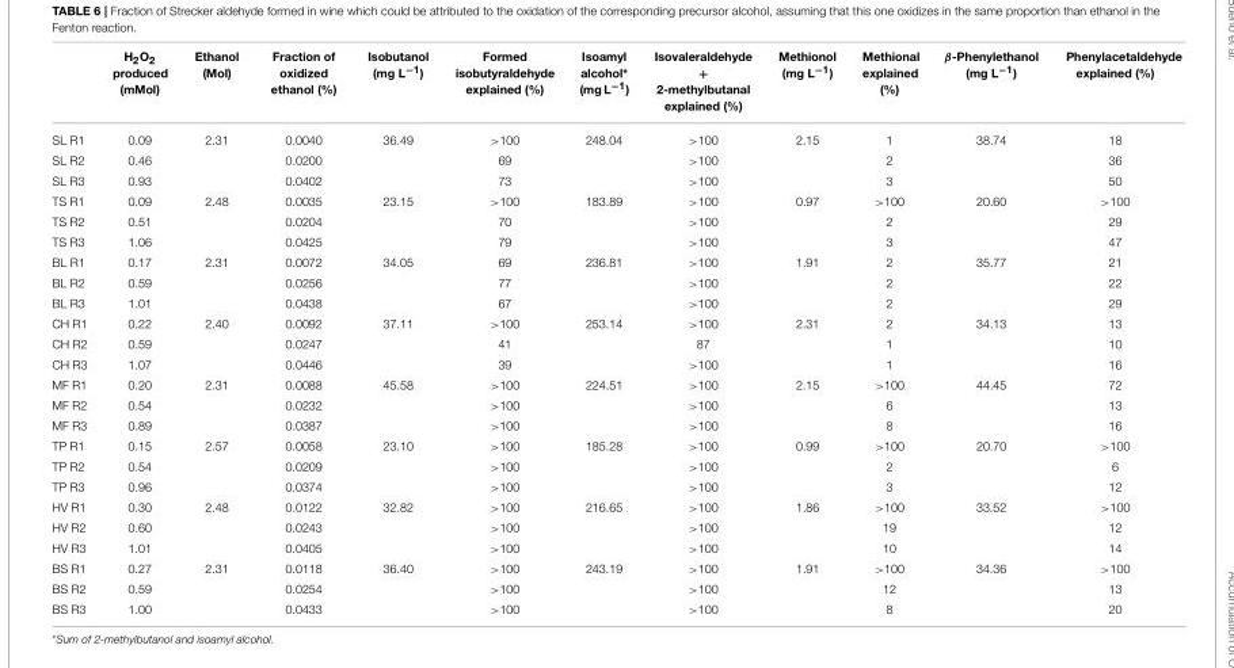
<table><thead><tr><td></td><td>H<sub>2</sub>O<sub>2</sub> produced (mMol)</td><td>Ethanol (Mol)</td><td>Fraction of oxidized ethanol (%)</td><td>Isobutanol (mg L<sup>−1</sup>)</td><td>Formed isobutyraldehyde explained (%)</td><td>Isoamyl alcohol* (mg L<sup>−1</sup>)</td><td>Isovaleraldehyde + 2-methylbutanal explained (%)</td><td>Methionol (mg L<sup>−1</sup>)</td><td>Methional explained (%)</td><td>β-Phenylethanol (mg L<sup>−1</sup>)</td><td>Phenylacetaldehyde explained (%)</td></tr></thead><tbody><tr><td>SL R1</td><td>0.09</td><td>2.31</td><td>0.0040</td><td>36.49</td><td>&gt;100</td><td>248.04</td><td>&gt;100</td><td>2.15</td><td>1</td><td>38.74</td><td>18</td></tr><tr><td>SL R2</td><td>0.46</td><td></td><td>0.0200</td><td></td><td>69</td><td></td><td>&gt;100</td><td></td><td>2</td><td></td><td>36</td></tr><tr><td>SL R3</td><td>0.93</td><td></td><td>0.0402</td><td></td><td>73</td><td></td><td>&gt;100</td><td></td><td>3</td><td></td><td>50</td></tr><tr><td>TS R1</td><td>0.09</td><td>2.48</td><td>0.0035</td><td>23.15</td><td>&gt;100</td><td>183.89</td><td>&gt;100</td><td>0.97</td><td>&gt;100</td><td>20.60</td><td>&gt;100</td></tr><tr><td>TS R2</td><td>0.51</td><td></td><td>0.0204</td><td></td><td>70</td><td></td><td>&gt;100</td><td></td><td>2</td><td></td><td>29</td></tr><tr><td>TS R3</td><td>1.06</td><td></td><td>0.0425</td><td></td><td>79</td><td></td><td>&gt;100</td><td></td><td>3</td><td></td><td>47</td></tr><tr><td>BL R1</td><td>0.17</td><td>2.31</td><td>0.0072</td><td>34.05</td><td>69</td><td>236.81</td><td>&gt;100</td><td>1.91</td><td>2</td><td>35.77</td><td>21</td></tr><tr><td>BL R2</td><td>0.59</td><td></td><td>0.0256</td><td></td><td>77</td><td></td><td>&gt;100</td><td></td><td>2</td><td></td><td>22</td></tr><tr><td>BL R3</td><td>1.01</td><td></td><td>0.0438</td><td></td><td>67</td><td></td><td>&gt;100</td><td></td><td>2</td><td></td><td>29</td></tr><tr><td>CH R1</td><td>0.22</td><td>2.40</td><td>0.0092</td><td>37.11</td><td>&gt;100</td><td>253.14</td><td>&gt;100</td><td>2.31</td><td>2</td><td>34.13</td><td>13</td></tr><tr><td>CH R2</td><td>0.59</td><td></td><td>0.0247</td><td></td><td>41</td><td></td><td>87</td><td></td><td>1</td><td></td><td>10</td></tr><tr><td>CH R3</td><td>1.07</td><td></td><td>0.0446</td><td></td><td>39</td><td></td><td>&gt;100</td><td></td><td>1</td><td></td><td>16</td></tr><tr><td>MF R1</td><td>0.20</td><td>2.31</td><td>0.0088</td><td>45.58</td><td>&gt;100</td><td>224.51</td><td>&gt;100</td><td>2.15</td><td>&gt;100</td><td>44.45</td><td>72</td></tr><tr><td>MF R2</td><td>0.54</td><td></td><td>0.0232</td><td></td><td>&gt;100</td><td></td><td>&gt;100</td><td></td><td>6</td><td></td><td>13</td></tr><tr><td>MF R3</td><td>0.89</td><td></td><td>0.0387</td><td></td><td>&gt;100</td><td></td><td>&gt;100</td><td></td><td>8</td><td></td><td>16</td></tr><tr><td>TP R1</td><td>0.15</td><td>2.57</td><td>0.0058</td><td>23.10</td><td>&gt;100</td><td>185.28</td><td>&gt;100</td><td>0.99</td><td>&gt;100</td><td>20.70</td><td>&gt;100</td></tr><tr><td>TP R2</td><td>0.54</td><td></td><td>0.0209</td><td></td><td>&gt;100</td><td></td><td>&gt;100</td><td></td><td>2</td><td></td><td>6</td></tr><tr><td>TP R3</td><td>0.96</td><td></td><td>0.0374</td><td></td><td>&gt;100</td><td></td><td>&gt;100</td><td></td><td>3</td><td></td><td>12</td></tr><tr><td>HV R1</td><td>0.30</td><td>2.48</td><td>0.0122</td><td>32.82</td><td>&gt;100</td><td>216.65</td><td>&gt;100</td><td>1.86</td><td>&gt;100</td><td>33.52</td><td>&gt;100</td></tr><tr><td>HV R2</td><td>0.60</td><td></td><td>0.0243</td><td></td><td>&gt;100</td><td></td><td>&gt;100</td><td></td><td>19</td><td></td><td>12</td></tr><tr><td>HV R3</td><td>1.01</td><td></td><td>0.0405</td><td></td><td>&gt;100</td><td></td><td>&gt;100</td><td></td><td>10</td><td></td><td>14</td></tr><tr><td>BS R1</td><td>0.27</td><td>2.31</td><td>0.0118</td><td>36.40</td><td>&gt;100</td><td>243.19</td><td>&gt;100</td><td>1.91</td><td>&gt;100</td><td>34.36</td><td>&gt;100</td></tr><tr><td>BS R2</td><td>0.59</td><td></td><td>0.0254</td><td></td><td>&gt;100</td><td></td><td>&gt;100</td><td></td><td>12</td><td></td><td>13</td></tr><tr><td>BS R3</td><td>1.00</td><td></td><td>0.0433</td><td></td><td>&gt;100</td><td></td><td>&gt;100</td><td></td><td>8</td><td></td><td>20</td></tr></tbody></table>